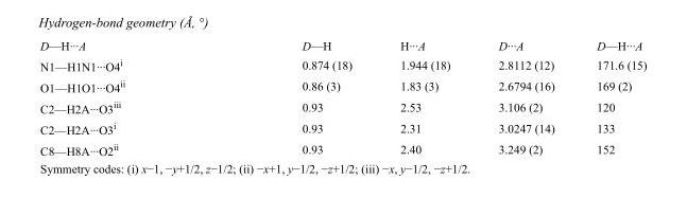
<table><tbody><tr><td>D—H···A</td><td>D—H</td><td>H···A</td><td>D···A</td><td>D—H···A</td></tr><tr><td>N1—H1N1···O4<sup>i</sup></td><td>0.874 (18)</td><td>1.944 (18)</td><td>2.8112 (12)</td><td>171.6 (15)</td></tr><tr><td>O1—H1O1···O4<sup>ii</sup></td><td>0.86 (3)</td><td>1.83 (3)</td><td>2.6794 (16)</td><td>169 (2)</td></tr><tr><td>C2—H2A···O3<sup>iii</sup></td><td>0.93</td><td>2.53</td><td>3.106 (2)</td><td>120</td></tr><tr><td>C2—H2A···O3<sup>i</sup></td><td>0.93</td><td>2.31</td><td>3.0247 (14)</td><td>133</td></tr><tr><td>C8—H8A···O2<sup>ii</sup></td><td>0.93</td><td>2.40</td><td>3.249 (2)</td><td>152</td></tr></tbody></table>